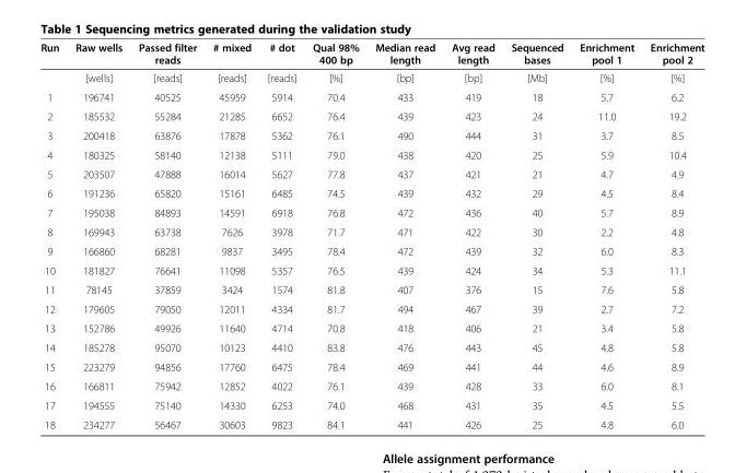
<table><thead><tr><td>Run</td><td>Raw wells</td><td>Passed filter reads</td><td># mixed</td><td># dot</td><td>Qual 98% 400 bp</td><td>Median read length</td><td>Avg read length</td><td>Sequenced bases</td><td>Enrichment pool 1</td><td>Enrichment pool 2</td></tr></thead><tbody><tr><td></td><td>[wells]</td><td>[reads]</td><td>[reads]</td><td>[reads]</td><td>[%]</td><td>[bp]</td><td>[bp]</td><td>[Mb]</td><td>[%]</td><td>[%]</td></tr><tr><td>1</td><td>196741</td><td>40525</td><td>45959</td><td>5914</td><td>70.4</td><td>433</td><td>419</td><td>18</td><td>5.7</td><td>6.2</td></tr><tr><td>2</td><td>185532</td><td>55284</td><td>21285</td><td>6652</td><td>76.4</td><td>439</td><td>423</td><td>24</td><td>11.0</td><td>19.2</td></tr><tr><td>3</td><td>200418</td><td>63876</td><td>17878</td><td>5362</td><td>76.1</td><td>490</td><td>444</td><td>31</td><td>3.7</td><td>8.5</td></tr><tr><td>4</td><td>180325</td><td>58140</td><td>12138</td><td>5111</td><td>79.0</td><td>438</td><td>420</td><td>25</td><td>5.9</td><td>10.4</td></tr><tr><td>5</td><td>203507</td><td>47888</td><td>16014</td><td>5627</td><td>77.8</td><td>437</td><td>421</td><td>21</td><td>4.7</td><td>4.9</td></tr><tr><td>6</td><td>191236</td><td>65820</td><td>15161</td><td>6485</td><td>74.5</td><td>439</td><td>432</td><td>29</td><td>4.5</td><td>8.4</td></tr><tr><td>7</td><td>195038</td><td>84893</td><td>14591</td><td>6918</td><td>76.8</td><td>472</td><td>436</td><td>40</td><td>5.7</td><td>8.9</td></tr><tr><td>8</td><td>169943</td><td>63738</td><td>7626</td><td>3978</td><td>71.7</td><td>471</td><td>422</td><td>30</td><td>2.2</td><td>4.8</td></tr><tr><td>9</td><td>166860</td><td>68281</td><td>9837</td><td>3495</td><td>78.4</td><td>472</td><td>439</td><td>32</td><td>6.0</td><td>8.3</td></tr><tr><td>10</td><td>181827</td><td>76641</td><td>11098</td><td>5357</td><td>76.5</td><td>439</td><td>424</td><td>34</td><td>5.3</td><td>11.1</td></tr><tr><td>11</td><td>78145</td><td>37859</td><td>3424</td><td>1574</td><td>81.8</td><td>407</td><td>376</td><td>15</td><td>7.6</td><td>5.8</td></tr><tr><td>12</td><td>179605</td><td>79050</td><td>12011</td><td>4334</td><td>81.7</td><td>494</td><td>467</td><td>39</td><td>2.7</td><td>7.2</td></tr><tr><td>13</td><td>152786</td><td>49926</td><td>11640</td><td>4714</td><td>70.8</td><td>418</td><td>406</td><td>21</td><td>3.4</td><td>5.8</td></tr><tr><td>14</td><td>185278</td><td>95070</td><td>10123</td><td>4410</td><td>83.8</td><td>476</td><td>443</td><td>45</td><td>4.8</td><td>5.8</td></tr><tr><td>15</td><td>223279</td><td>94856</td><td>17760</td><td>6475</td><td>78.4</td><td>469</td><td>441</td><td>44</td><td>4.6</td><td>8.9</td></tr><tr><td>16</td><td>166811</td><td>75942</td><td>12852</td><td>4022</td><td>76.1</td><td>439</td><td>428</td><td>33</td><td>6.0</td><td>8.1</td></tr><tr><td>17</td><td>194555</td><td>75140</td><td>14330</td><td>6253</td><td>74.0</td><td>468</td><td>431</td><td>35</td><td>4.5</td><td>5.5</td></tr><tr><td>18</td><td>234277</td><td>56467</td><td>30603</td><td>9823</td><td>84.1</td><td>441</td><td>426</td><td>25</td><td>4.8</td><td>6.0</td></tr></tbody></table>